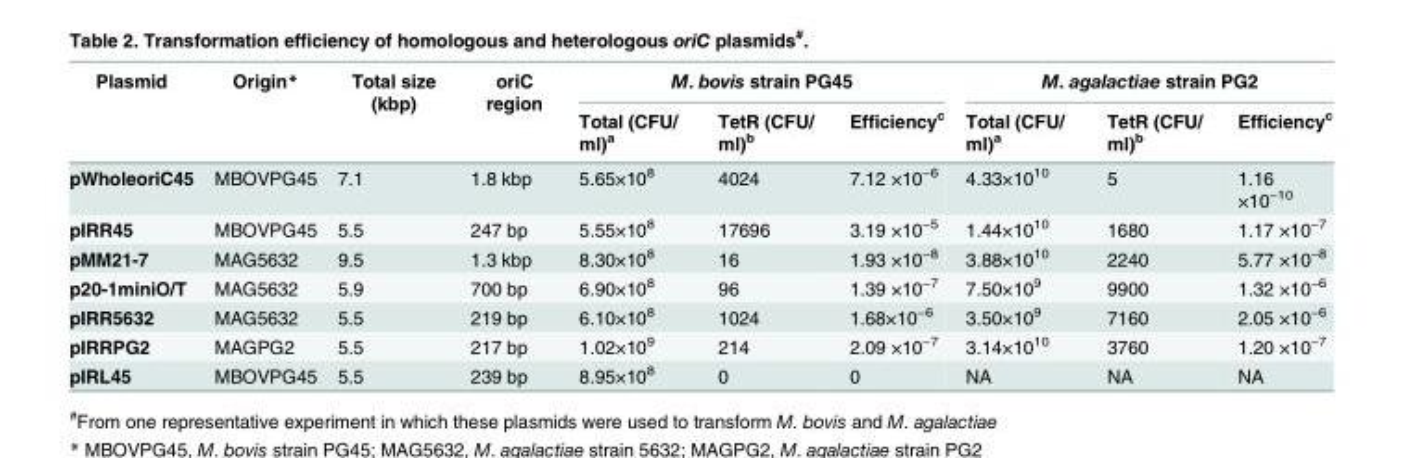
<table><thead><tr><td rowspan="2">Plasmid</td><td rowspan="2">Origin*</td><td rowspan="2">Total size (kbp)</td><td rowspan="2">oriC region</td><td colspan="3">M. bovis strain PG45</td><td colspan="3">M. agalactiae strain PG2</td></tr><tr><td>Total (CFU/ ml)<sup>a</sup></td><td>TetR (CFU/ ml)<sup>b</sup></td><td>Efficiency<sup>c</sup></td><td>Total (CFU/ ml)<sup>a</sup></td><td>TetR (CFU/ ml)<sup>b</sup></td><td>Efficiency<sup>c</sup></td></tr></thead><tbody><tr><td>pWholeoriC45</td><td>MBOVPG45</td><td>7.1</td><td>1.8 kbp</td><td>5.65×10<sup>8</sup></td><td>4024</td><td>7.12 ×10<sup>−6</sup></td><td>4.33×10<sup>10</sup></td><td>5</td><td>1.16 ×10<sup>−10</sup></td></tr><tr><td>pIRR45</td><td>MBOVPG45</td><td>5.5</td><td>247 bp</td><td>5.55×10<sup>8</sup></td><td>17696</td><td>3.19 ×10<sup>−5</sup></td><td>1.44×10<sup>10</sup></td><td>1680</td><td>1.17 ×10<sup>−7</sup></td></tr><tr><td>pMM21-7</td><td>MAG5632</td><td>9.5</td><td>1.3 kbp</td><td>8.30×10<sup>8</sup></td><td>16</td><td>1.93 ×10<sup>−8</sup></td><td>3.88×10<sup>10</sup></td><td>2240</td><td>5.77 ×10<sup>−8</sup></td></tr><tr><td>p20-1miniO/T</td><td>MAG5632</td><td>5.9</td><td>700 bp</td><td>6.90×10<sup>8</sup></td><td>96</td><td>1.39 ×10<sup>−7</sup></td><td>7.50×10<sup>9</sup></td><td>9900</td><td>1.32 ×10<sup>−6</sup></td></tr><tr><td>pIRR5632</td><td>MAG5632</td><td>5.5</td><td>219 bp</td><td>6.10×10<sup>8</sup></td><td>1024</td><td>1.68×10<sup>−6</sup></td><td>3.50×10<sup>9</sup></td><td>7160</td><td>2.05 ×10<sup>−6</sup></td></tr><tr><td>pIRRPG2</td><td>MAGPG2</td><td>5.5</td><td>217 bp</td><td>1.02×10<sup>9</sup></td><td>214</td><td>2.09 ×10<sup>−7</sup></td><td>3.14×10<sup>10</sup></td><td>3760</td><td>1.20 ×10<sup>−7</sup></td></tr><tr><td>pIRL45</td><td>MBOVPG45</td><td>5.5</td><td>239 bp</td><td>8.95×10<sup>8</sup></td><td>0</td><td>0</td><td>NA</td><td>NA</td><td>NA</td></tr></tbody></table>